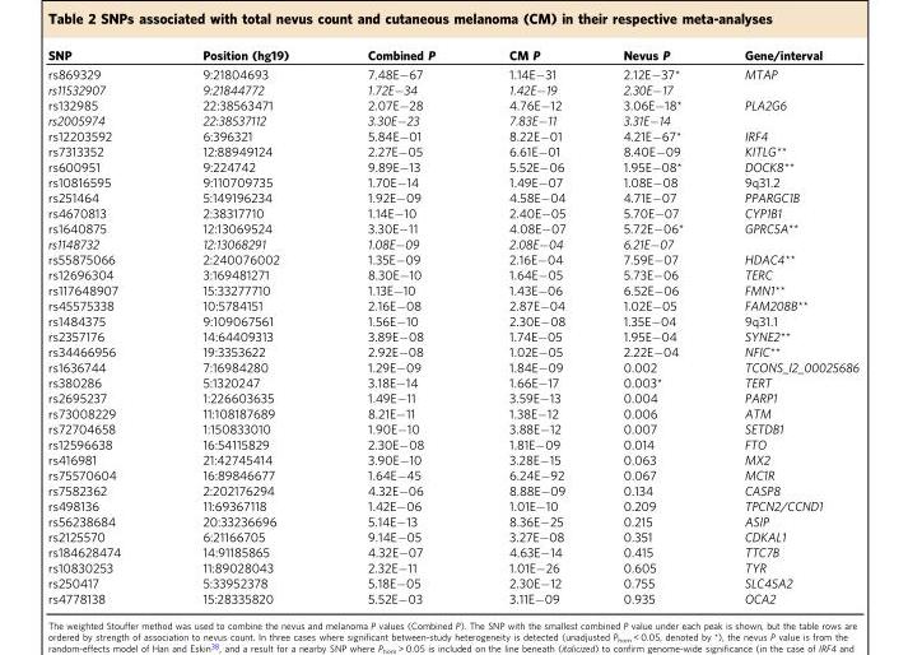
<table><thead><tr><td>SNP</td><td>Position (hg19)</td><td>Combined P</td><td>CM P</td><td>Nevus P</td><td>Gene/interval</td></tr></thead><tbody><tr><td>rs869329</td><td>9:21804693</td><td>7.48E−67</td><td>1.14E−31</td><td>2.12E−37*</td><td>MTAP</td></tr><tr><td>rs11532907</td><td>9:21844772</td><td>1.72E−34</td><td>1.42E−19</td><td>2.30E−17</td><td></td></tr><tr><td>rs132985</td><td>22:38563471</td><td>2.07E−28</td><td>4.76E−12</td><td>3.06E−18*</td><td>PLA2G6</td></tr><tr><td>rs2005974</td><td>22:38537112</td><td>3.30E−23</td><td>7.83E−11</td><td>3.31E−14</td><td></td></tr><tr><td>rs12203592</td><td>6:396321</td><td>5.84E−01</td><td>8.22E−01</td><td>4.21E−67*</td><td>IRF4</td></tr><tr><td>rs7313352</td><td>12:88949124</td><td>2.27E−05</td><td>6.61E−01</td><td>8.40E−09</td><td>KITLG**</td></tr><tr><td>rs600951</td><td>9:224742</td><td>9.89E−13</td><td>5.52E−06</td><td>1.95E−08*</td><td>DOCK8**</td></tr><tr><td>rs10816595</td><td>9:110709735</td><td>1.70E−14</td><td>1.49E−07</td><td>1.08E−08</td><td>9q31.2</td></tr><tr><td>rs251464</td><td>5:149196234</td><td>1.92E−09</td><td>4.58E−04</td><td>4.71E−07</td><td>PPARGC1B</td></tr><tr><td>rs4670813</td><td>2:38317710</td><td>1.14E−10</td><td>2.40E−05</td><td>5.70E−07</td><td>CYP1B1</td></tr><tr><td>rs1640875</td><td>12:13069524</td><td>3.30E−11</td><td>4.08E−07</td><td>5.72E−06*</td><td>GPRC5A**</td></tr><tr><td>rs1148732</td><td>12:13068291</td><td>1.08E−09</td><td>2.08E−04</td><td>6.21E−07</td><td></td></tr><tr><td>rs55875066</td><td>2:240076002</td><td>1.35E−09</td><td>2.16E−04</td><td>7.59E−07</td><td>HDAC4**</td></tr><tr><td>rs12696304</td><td>3:169481271</td><td>8.30E−10</td><td>1.64E−05</td><td>5.73E−06</td><td>TERC</td></tr><tr><td>rs117648907</td><td>15:33277710</td><td>1.13E−10</td><td>1.43E−06</td><td>6.52E−06</td><td>FMN1**</td></tr><tr><td>rs45575338</td><td>10:5784151</td><td>2.16E−08</td><td>2.87E−04</td><td>1.02E−05</td><td>FAM208B**</td></tr><tr><td>rs1484375</td><td>9:109067561</td><td>1.56E−10</td><td>2.30E−08</td><td>1.35E−04</td><td>9q31.1</td></tr><tr><td>rs2357176</td><td>14:64409313</td><td>3.89E−08</td><td>1.74E−05</td><td>1.95E−04</td><td>SYNE2**</td></tr><tr><td>rs34466956</td><td>19:3353622</td><td>2.92E−08</td><td>1.02E−05</td><td>2.22E−04</td><td>NFIC**</td></tr><tr><td>rs1636744</td><td>7:16984280</td><td>1.29E−09</td><td>1.84E−09</td><td>0.002</td><td>TCONS_l2_00025686</td></tr><tr><td>rs380286</td><td>5:1320247</td><td>3.18E−14</td><td>1.66E−17</td><td>0.003*</td><td>TERT</td></tr><tr><td>rs2695237</td><td>1:226603635</td><td>1.49E−11</td><td>3.59E−13</td><td>0.004</td><td>PARP1</td></tr><tr><td>rs73008229</td><td>11:108187689</td><td>8.21E−11</td><td>1.38E−12</td><td>0.006</td><td>ATM</td></tr><tr><td>rs72704658</td><td>1:150833010</td><td>1.90E−10</td><td>3.88E−12</td><td>0.007</td><td>SETDB1</td></tr><tr><td>rs12596638</td><td>16:54115829</td><td>2.30E−08</td><td>1.81E−09</td><td>0.014</td><td>FTO</td></tr><tr><td>rs416981</td><td>21:42745414</td><td>3.90E−10</td><td>3.28E−15</td><td>0.063</td><td>MX2</td></tr><tr><td>rs75570604</td><td>16:89846677</td><td>1.64E−45</td><td>6.24E−92</td><td>0.067</td><td>MC1R</td></tr><tr><td>rs7582362</td><td>2:202176294</td><td>4.32E−06</td><td>8.88E−09</td><td>0.134</td><td>CASP8</td></tr><tr><td>rs498136</td><td>11:69367118</td><td>1.42E−06</td><td>1.01E−10</td><td>0.209</td><td>TPCN2/CCND1</td></tr><tr><td>rs56238684</td><td>20:33236696</td><td>5.14E−13</td><td>8.36E−25</td><td>0.215</td><td>ASIP</td></tr><tr><td>rs2125570</td><td>6:21166705</td><td>9.14E−05</td><td>3.27E−08</td><td>0.351</td><td>CDKAL1</td></tr><tr><td>rs184628474</td><td>14:91185865</td><td>4.32E−07</td><td>4.63E−14</td><td>0.415</td><td>TTC7B</td></tr><tr><td>rs10830253</td><td>11:89028043</td><td>2.32E−11</td><td>1.01E−26</td><td>0.605</td><td>TYR</td></tr><tr><td>rs250417</td><td>5:33952378</td><td>5.18E−05</td><td>2.30E−12</td><td>0.755</td><td>SLC45A2</td></tr><tr><td>rs4778138</td><td>15:28335820</td><td>5.52E−03</td><td>3.11E−09</td><td>0.935</td><td>OCA2</td></tr></tbody></table>